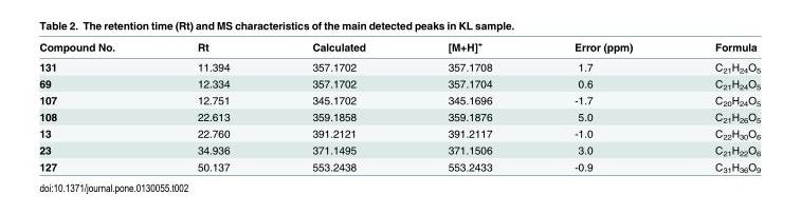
<table><thead><tr><td>Compound No.</td><td>Rt</td><td>Calculated</td><td>[M+H]<sup>+</sup></td><td>Error (ppm)</td><td>Formula</td></tr></thead><tbody><tr><td>131</td><td>11.394</td><td>357.1702</td><td>357.1708</td><td>1.7</td><td>C<sub>21</sub>H<sub>24</sub>O<sub>5</sub></td></tr><tr><td>69</td><td>12.334</td><td>357.1702</td><td>357.1704</td><td>0.6</td><td>C<sub>21</sub>H<sub>24</sub>O<sub>5</sub></td></tr><tr><td>107</td><td>12.751</td><td>345.1702</td><td>345.1696</td><td>-1.7</td><td>C<sub>20</sub>H<sub>24</sub>O<sub>5</sub></td></tr><tr><td>108</td><td>22.613</td><td>359.1858</td><td>359.1876</td><td>5.0</td><td>C<sub>21</sub>H<sub>26</sub>O<sub>5</sub></td></tr><tr><td>13</td><td>22.760</td><td>391.2121</td><td>391.2117</td><td>-1.0</td><td>C<sub>22</sub>H<sub>30</sub>O<sub>6</sub></td></tr><tr><td>23</td><td>34.936</td><td>371.1495</td><td>371.1506</td><td>3.0</td><td>C<sub>21</sub>H<sub>22</sub>O<sub>6</sub></td></tr><tr><td>127</td><td>50.137</td><td>553.2438</td><td>553.2433</td><td>-0.9</td><td>C<sub>31</sub>H<sub>36</sub>O<sub>9</sub></td></tr></tbody></table>